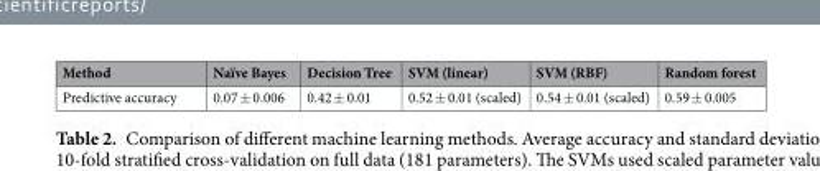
<table><thead><tr><td>Method</td><td>Naïve Bayes</td><td>Decision Tree</td><td>SVM (linear)</td><td>SVM (RBF)</td><td>Random forest</td></tr></thead><tbody><tr><td>Predictive accuracy</td><td>0.07 ± 0.006</td><td>0.42 ± 0.01</td><td>0.52 ± 0.01 (scaled)</td><td>0.54 ± 0.01 (scaled)</td><td>0.59 ± 0.005</td></tr></tbody></table>